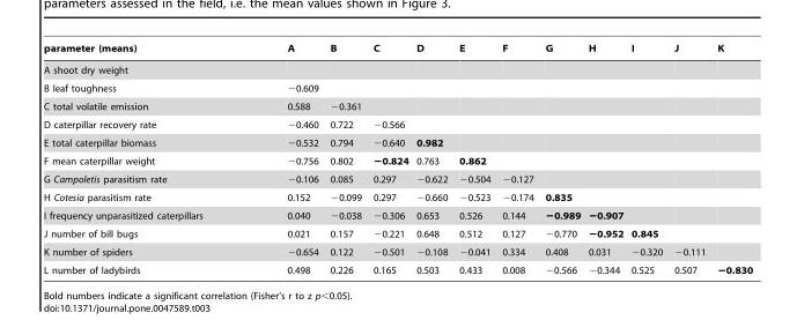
<table><thead><tr><td>parameter (means)</td><td>A</td><td>B</td><td>C</td><td>D</td><td>E</td><td>F</td><td>G</td><td>H</td><td>I</td><td>J</td><td>K</td></tr></thead><tbody><tr><td colspan="12">A shoot dry weight</td></tr><tr><td>B leaf toughness</td><td>−0.609</td><td></td><td></td><td></td><td></td><td></td><td></td><td></td><td></td><td></td><td></td></tr><tr><td>C total volatile emission</td><td>0.588</td><td>−0.361</td><td></td><td></td><td></td><td></td><td></td><td></td><td></td><td></td><td></td></tr><tr><td>D caterpillar recovery rate</td><td>−0.460</td><td>0.722</td><td>−0.566</td><td></td><td></td><td></td><td></td><td></td><td></td><td></td><td></td></tr><tr><td>E total caterpillar biomass</td><td>−0.532</td><td>0.794</td><td>−0.640</td><td>0.982</td><td></td><td></td><td></td><td></td><td></td><td></td><td></td></tr><tr><td>F mean caterpillar weight</td><td>−0.756</td><td>0.802</td><td>−0.824</td><td>0.763</td><td>0.862</td><td></td><td></td><td></td><td></td><td></td><td></td></tr><tr><td>G Campoletis parasitism rate</td><td>−0.106</td><td>0.085</td><td>0.297</td><td>−0.622</td><td>−0.504</td><td>−0.127</td><td></td><td></td><td></td><td></td><td></td></tr><tr><td>H Cotesia parasitism rate</td><td>0.152</td><td>−0.099</td><td>0.297</td><td>−0.660</td><td>−0.523</td><td>−0.174</td><td>0.835</td><td></td><td></td><td></td><td></td></tr><tr><td>I frequency unparasitized caterpillars</td><td>0.040</td><td>−0.038</td><td>−0.306</td><td>0.653</td><td>0.526</td><td>0.144</td><td>−0.989</td><td>−0.907</td><td></td><td></td><td></td></tr><tr><td>J number of bill bugs</td><td>0.021</td><td>0.157</td><td>−0.221</td><td>0.648</td><td>0.512</td><td>0.127</td><td>−0.770</td><td>−0.952</td><td>0.845</td><td></td><td></td></tr><tr><td>K number of spiders</td><td>−0.654</td><td>0.122</td><td>−0.501</td><td>−0.108</td><td>−0.041</td><td>0.334</td><td>0.408</td><td>0.031</td><td>−0.320</td><td>−0.111</td><td></td></tr><tr><td>L number of ladybirds</td><td>0.498</td><td>0.226</td><td>0.165</td><td>0.503</td><td>0.433</td><td>0.008</td><td>−0.566</td><td>−0.344</td><td>0.525</td><td>0.507</td><td>−0.830</td></tr></tbody></table>